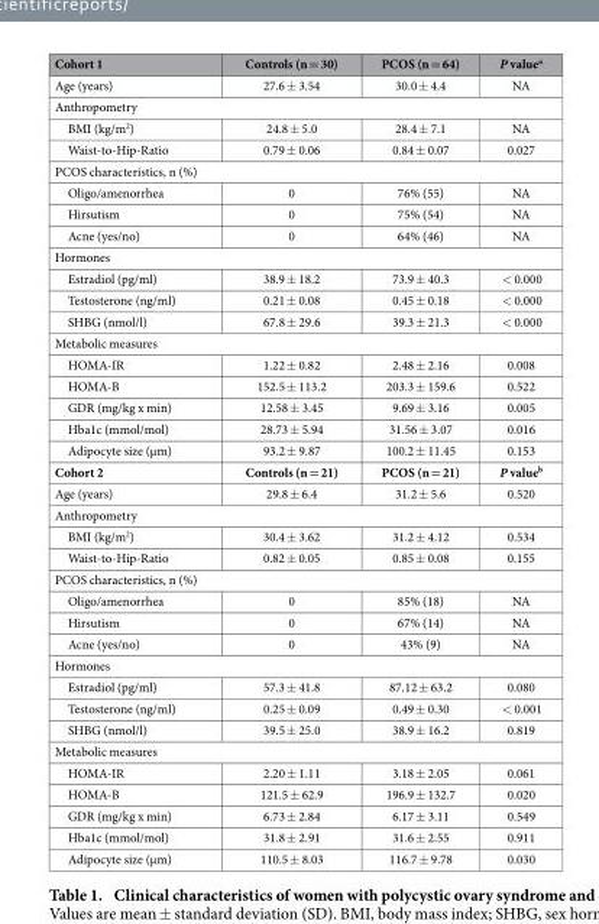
<table><thead><tr><td>Cohort 1</td><td>Controls (n = 30)</td><td>PCOS (n = 64)</td><td>P value<sup>a</sup></td></tr></thead><tbody><tr><td>Age (years)</td><td>27.6 ± 3.54</td><td>30.0 ± 4.4</td><td>NA</td></tr><tr><td colspan="4">Anthropometry</td></tr><tr><td>BMI (kg/m<sup>2</sup>)</td><td>24.8 ± 5.0</td><td>28.4 ± 7.1</td><td>NA</td></tr><tr><td>Waist-to-Hip-Ratio</td><td>0.79 ± 0.06</td><td>0.84 ± 0.07</td><td>0.027</td></tr><tr><td colspan="4">PCOS characteristics, n (%)</td></tr><tr><td>Oligo/amenorrhea</td><td>0</td><td>76% (55)</td><td>NA</td></tr><tr><td>Hirsutism</td><td>0</td><td>75% (54)</td><td>NA</td></tr><tr><td>Acne (yes/no)</td><td>0</td><td>64% (46)</td><td>NA</td></tr><tr><td colspan="4">Hormones</td></tr><tr><td>Estradiol (pg/ml)</td><td>38.9 ± 18.2</td><td>73.9 ± 40.3</td><td>&lt; 0.000</td></tr><tr><td>Testosterone (ng/ml)</td><td>0.21 ± 0.08</td><td>0.45 ± 0.18</td><td>&lt; 0.000</td></tr><tr><td>SHBG (nmol/l)</td><td>67.8 ± 29.6</td><td>39.3 ± 21.3</td><td>&lt; 0.000</td></tr><tr><td colspan="4">Metabolic measures</td></tr><tr><td>HOMA-IR</td><td>1.22 ± 0.82</td><td>2.48 ± 2.16</td><td>0.008</td></tr><tr><td>HOMA-B</td><td>152.5 ± 113.2</td><td>203.3 ± 159.6</td><td>0.522</td></tr><tr><td>GDR (mg/kg x min)</td><td>12.58 ± 3.45</td><td>9.69 ± 3.16</td><td>0.005</td></tr><tr><td>Hba1c (mmol/mol)</td><td>28.73 ± 5.94</td><td>31.56 ± 3.07</td><td>0.016</td></tr><tr><td>Adipocyte size (μm)</td><td>93.2 ± 9.87</td><td>100.2 ± 11.45</td><td>0.153</td></tr><tr><td>Cohort 2</td><td>Controls (n = 21)</td><td>PCOS (n = 21)</td><td>P value<sup>b</sup></td></tr><tr><td>Age (years)</td><td>29.8 ± 6.4</td><td>31.2 ± 5.6</td><td>0.520</td></tr><tr><td colspan="4">Anthropometry</td></tr><tr><td>BMI (kg/m<sup>2</sup>)</td><td>30.4 ± 3.62</td><td>31.2 ± 4.12</td><td>0.534</td></tr><tr><td>Waist-to-Hip-Ratio</td><td>0.82 ± 0.05</td><td>0.85 ± 0.08</td><td>0.155</td></tr><tr><td colspan="4">PCOS characteristics, n (%)</td></tr><tr><td>Oligo/amenorrhea</td><td>0</td><td>85% (18)</td><td>NA</td></tr><tr><td>Hirsutism</td><td>0</td><td>67% (14)</td><td>NA</td></tr><tr><td>Acne (yes/no)</td><td>0</td><td>43% (9)</td><td>NA</td></tr><tr><td colspan="4">Hormones</td></tr><tr><td>Estradiol (pg/ml)</td><td>57.3 ± 41.8</td><td>87.12 ± 63.2</td><td>0.080</td></tr><tr><td>Testosterone (ng/ml)</td><td>0.25 ± 0.09</td><td>0.49 ± 0.30</td><td>&lt; 0.001</td></tr><tr><td>SHBG (nmol/l)</td><td>39.5 ± 25.0</td><td>38.9 ± 16.2</td><td>0.819</td></tr><tr><td colspan="4">Metabolic measures</td></tr><tr><td>HOMA-IR</td><td>2.20 ± 1.11</td><td>3.18 ± 2.05</td><td>0.061</td></tr><tr><td>HOMA-B</td><td>121.5 ± 62.9</td><td>196.9 ± 132.7</td><td>0.020</td></tr><tr><td>GDR (mg/kg x min)</td><td>6.73 ± 2.84</td><td>6.17 ± 3.11</td><td>0.549</td></tr><tr><td>Hba1c (mmol/mol)</td><td>31.8 ± 2.91</td><td>31.6 ± 2.55</td><td>0.911</td></tr><tr><td>Adipocyte size (μm)</td><td>110.5 ± 8.03</td><td>116.7 ± 9.78</td><td>0.030</td></tr></tbody></table>